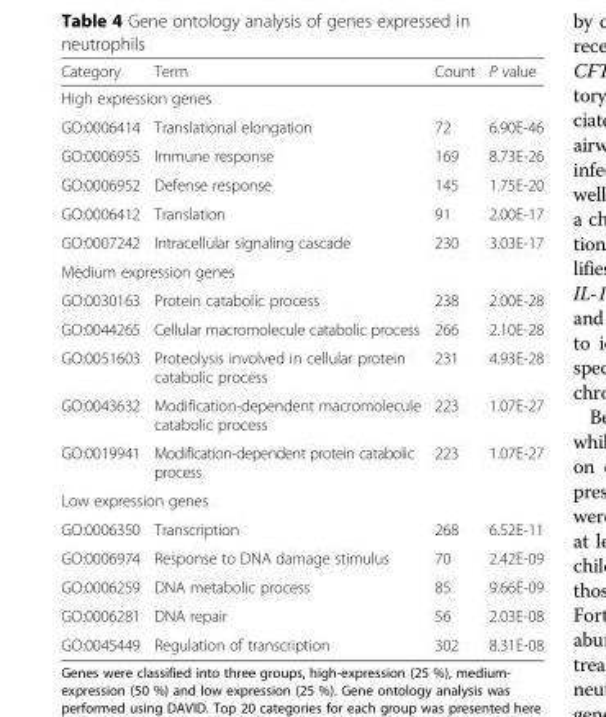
<table><thead><tr><td>Category</td><td>Term</td><td>Count</td><td>P value</td></tr></thead><tbody><tr><td colspan="4">High expression genes</td></tr><tr><td>GO:0006414</td><td>Translational elongation</td><td>72</td><td>6.90E-46</td></tr><tr><td>GO:0006955</td><td>Immune response</td><td>169</td><td>8.73E-26</td></tr><tr><td>GO:0006952</td><td>Defense response</td><td>145</td><td>1.75E-20</td></tr><tr><td>GO:0006412</td><td>Translation</td><td>91</td><td>2.00E-17</td></tr><tr><td>GO:0007242</td><td>Intracellular signaling cascade</td><td>230</td><td>3.03E-17</td></tr><tr><td colspan="4">Medium expression genes</td></tr><tr><td>GO:0030163</td><td>Protein catabolic process</td><td>238</td><td>2.00E-28</td></tr><tr><td>GO:0044265</td><td>Cellular macromolecule catabolic process</td><td>266</td><td>2.10E-28</td></tr><tr><td>GO:0051603</td><td>Proteolysis involved in cellular protein catabolic process</td><td>231</td><td>4.93E-28</td></tr><tr><td>GO:0043632</td><td>Modification-dependent macromolecule catabolic process</td><td>223</td><td>1.07E-27</td></tr><tr><td>GO:0019941</td><td>Modification-dependent protein catabolic process</td><td>223</td><td>1.07E-27</td></tr><tr><td colspan="4">Low expression genes</td></tr><tr><td>GO:0006350</td><td>Transcription</td><td>268</td><td>6.52E-11</td></tr><tr><td>GO:0006974</td><td>Response to DNA damage stimulus</td><td>70</td><td>2.42E-09</td></tr><tr><td>GO:0006259</td><td>DNA metabolic process</td><td>85</td><td>9.66E-09</td></tr><tr><td>GO:0006281</td><td>DNA repair</td><td>56</td><td>2.03E-08</td></tr><tr><td>GO:0045449</td><td>Regulation of transcription</td><td>302</td><td>8.31E-08</td></tr></tbody></table>